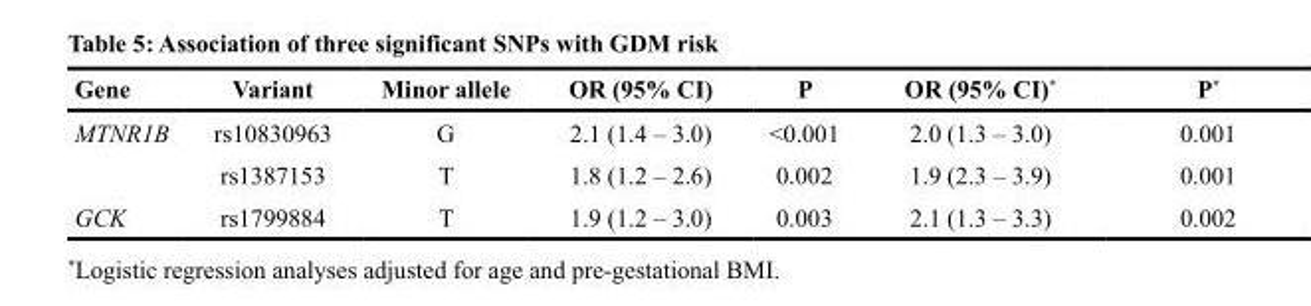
<table><thead><tr><td>Gene</td><td>Variant</td><td>Minor allele</td><td>OR (95% CI)</td><td>P</td><td>OR (95% CI)*</td><td>P*</td></tr></thead><tbody><tr><td rowspan="2">MTNR1B</td><td>rs10830963</td><td>G</td><td>2.1 (1.4 – 3.0)</td><td>&lt;0.001</td><td>2.0 (1.3 – 3.0)</td><td>0.001</td></tr><tr><td>rs1387153</td><td>T</td><td>1.8 (1.2 – 2.6)</td><td>0.002</td><td>1.9 (2.3 – 3.9)</td><td>0.001</td></tr><tr><td>GCK</td><td>rs1799884</td><td>T</td><td>1.9 (1.2 – 3.0)</td><td>0.003</td><td>2.1 (1.3 – 3.3)</td><td>0.002</td></tr></tbody></table>